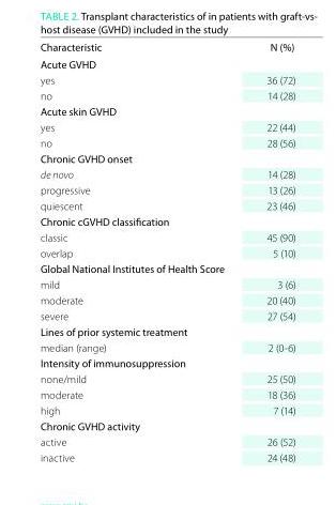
<table><thead><tr><td>Characteristic</td><td>N (%)</td></tr></thead><tbody><tr><td colspan="2">acute GVhD</td></tr><tr><td>yes</td><td>36 (72)</td></tr><tr><td>no</td><td>14 (28)</td></tr><tr><td colspan="2">acute skin GVhD</td></tr><tr><td>yes</td><td>22 (44)</td></tr><tr><td>no</td><td>28 (56)</td></tr><tr><td colspan="2">Chronic GVhD onset</td></tr><tr><td>de novo</td><td>14 (28)</td></tr><tr><td>progressive</td><td>13 (26)</td></tr><tr><td>quiescent</td><td>23 (46)</td></tr><tr><td colspan="2">Chronic cGVhD classification</td></tr><tr><td>classic</td><td>45 (90)</td></tr><tr><td>overlap</td><td>5 (10)</td></tr><tr><td colspan="2">Global National Institutes of health Score</td></tr><tr><td>mild</td><td>3 (6)</td></tr><tr><td>moderate</td><td>20 (40)</td></tr><tr><td>severe</td><td>27 (54)</td></tr><tr><td colspan="2">Lines of prior systemic treatment</td></tr><tr><td>median (range)</td><td>2 (0-6)</td></tr><tr><td colspan="2">Intensity of immunosuppression</td></tr><tr><td>none/mild</td><td>25 (50)</td></tr><tr><td>moderate</td><td>18 (36)</td></tr><tr><td>high</td><td>7 (14)</td></tr><tr><td colspan="2">Chronic GVhD activity</td></tr><tr><td>active</td><td>26 (52)</td></tr><tr><td>inactive</td><td>24 (48)</td></tr></tbody></table>